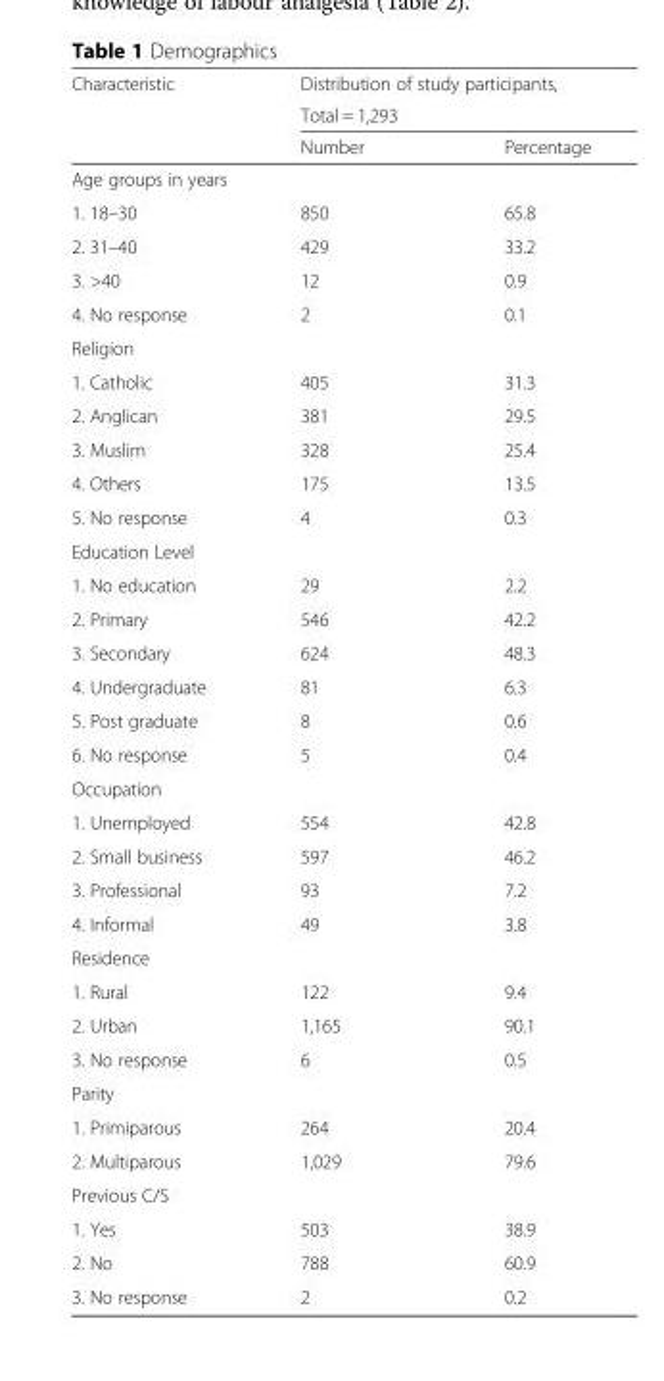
<table><thead><tr><td rowspan="3">Characteristic</td><td rowspan="2" colspan="2">Distribution of study participants, Total = 1,293</td></tr><tr></tr><tr><td>Number</td><td>Percentage</td></tr></thead><tbody><tr><td colspan="3">Age groups in years</td></tr><tr><td>1. 18–30</td><td>850</td><td>65.8</td></tr><tr><td>2. 31–40</td><td>429</td><td>33.2</td></tr><tr><td>3. &gt;40</td><td>12</td><td>0.9</td></tr><tr><td>4. No response</td><td>2</td><td>0.1</td></tr><tr><td colspan="3">Religion</td></tr><tr><td>1. Catholic</td><td>405</td><td>31.3</td></tr><tr><td>2. Anglican</td><td>381</td><td>29.5</td></tr><tr><td>3. Muslim</td><td>328</td><td>25.4</td></tr><tr><td>4. Others</td><td>175</td><td>13.5</td></tr><tr><td>5. No response</td><td>4</td><td>0.3</td></tr><tr><td colspan="3">Education Level</td></tr><tr><td>1. No education</td><td>29</td><td>2.2</td></tr><tr><td>2. Primary</td><td>546</td><td>42.2</td></tr><tr><td>3. Secondary</td><td>624</td><td>48.3</td></tr><tr><td>4. Undergraduate</td><td>81</td><td>6.3</td></tr><tr><td>5. Post graduate</td><td>8</td><td>0.6</td></tr><tr><td>6. No response</td><td>5</td><td>0.4</td></tr><tr><td colspan="3">Occupation</td></tr><tr><td>1. Unemployed</td><td>554</td><td>42.8</td></tr><tr><td>2. Small business</td><td>597</td><td>46.2</td></tr><tr><td>3. Professional</td><td>93</td><td>7.2</td></tr><tr><td>4. Informal</td><td>49</td><td>3.8</td></tr><tr><td colspan="3">Residence</td></tr><tr><td>1. Rural</td><td>122</td><td>9.4</td></tr><tr><td>2. Urban</td><td>1,165</td><td>90.1</td></tr><tr><td>3. No response</td><td>6</td><td>0.5</td></tr><tr><td colspan="3">Parity</td></tr><tr><td>1. Primiparous</td><td>264</td><td>20.4</td></tr><tr><td>2. Multiparous</td><td>1,029</td><td>79.6</td></tr><tr><td colspan="3">Previous C/S</td></tr><tr><td>1. Yes</td><td>503</td><td>38.9</td></tr><tr><td>2. No</td><td>788</td><td>60.9</td></tr><tr><td>3. No response</td><td>2</td><td>0.2</td></tr></tbody></table>